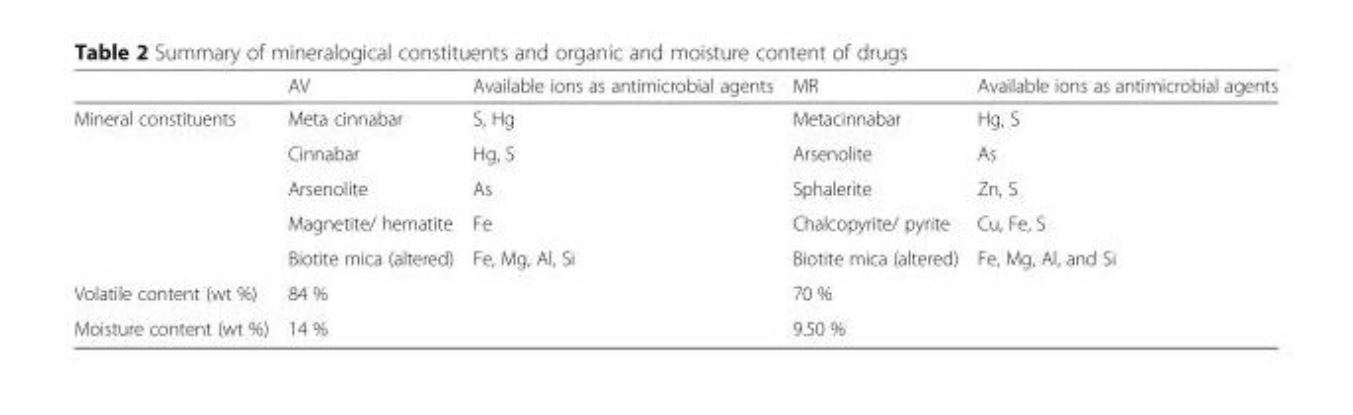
<table><thead><tr><td></td><td>AV</td><td>Available ions as antimicrobial agents</td><td>MR</td><td>Available ions as antimicrobial agents</td></tr></thead><tbody><tr><td rowspan="5">Mineral constituents</td><td>Meta cinnabar</td><td>S, Hg</td><td>Metacinnabar</td><td>Hg, S</td></tr><tr><td>Cinnabar</td><td>Hg, S</td><td>Arsenolite</td><td>As</td></tr><tr><td>Arsenolite</td><td>As</td><td>Sphalerite</td><td>Zn, S</td></tr><tr><td>Magnetite/ hematite</td><td>Fe</td><td>Chalcopyrite/ pyrite</td><td>Cu, Fe, S</td></tr><tr><td>Biotite mica (altered)</td><td>Fe, Mg, Al, Si</td><td>Biotite mica (altered)</td><td>Fe, Mg, Al, and Si</td></tr><tr><td>Volatile content (wt %)</td><td>84 %</td><td></td><td>70 %</td><td></td></tr><tr><td>Moisture content (wt %)</td><td>14 %</td><td></td><td>9.50 %</td><td></td></tr></tbody></table>